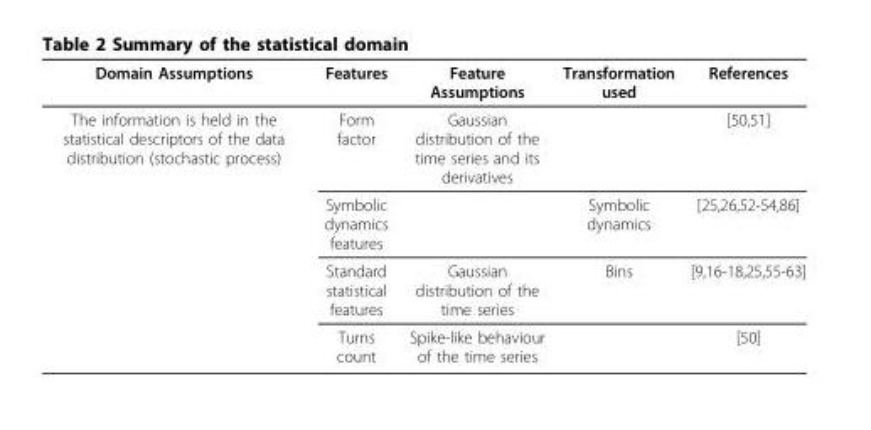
<table><thead><tr><td>Domain Assumptions</td><td>Features</td><td>Feature Assumptions</td><td>Transformation used</td><td>References</td></tr></thead><tbody><tr><td rowspan="4">The information is held in the statistical descriptors of the data distribution (stochastic process)</td><td>Form factor</td><td>Gaussian distribution of the time series and its derivatives</td><td></td><td>[50,51]</td></tr><tr><td>Symbolic dynamics features</td><td></td><td>Symbolic dynamics</td><td>[25,26,52-54,86]</td></tr><tr><td>Standard statistical features</td><td>Gaussian distribution of the time series</td><td>Bins</td><td>[9,16-18,25,55-63]</td></tr><tr><td>Turns count</td><td>Spike-like behaviour of the time series</td><td></td><td>[50]</td></tr></tbody></table>